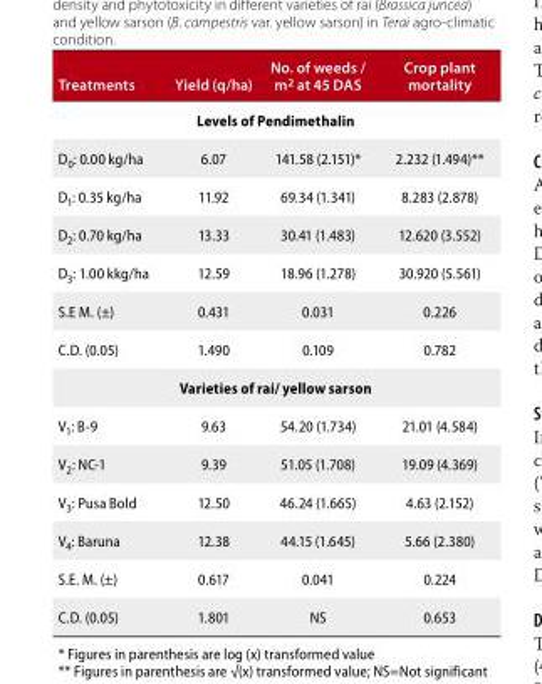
<table><thead><tr><td>Treatments</td><td>Yield (q/ha)</td><td>No. of weeds / m<sup>2</sup> at 45 DAS</td><td>Crop plant mortality</td></tr></thead><tbody><tr><td colspan="4">Levels of Pendimethalin</td></tr><tr><td>D<sub>0</sub>: 0.00 kg/ha</td><td>6.07</td><td>141.58 (2.151)*</td><td>2.232 (1.494)**</td></tr><tr><td>D<sub>1</sub>: 0.35 kg/ha</td><td>11.92</td><td>69.34 (1.341)</td><td>8.283 (2.878)</td></tr><tr><td>D<sub>2</sub>: 0.70 kg/ha</td><td>13.33</td><td>30.41 (1.483)</td><td>12.620 (3.552)</td></tr><tr><td>D<sub>3</sub>: 1.00 kkg/ha</td><td>12.59</td><td>18.96 (1.278)</td><td>30.920 (5.561)</td></tr><tr><td>S.E M. (±)</td><td>0.431</td><td>0.031</td><td>0.226</td></tr><tr><td>C.D. (0.05)</td><td>1.490</td><td>0.109</td><td>0.782</td></tr><tr><td colspan="4">Varieties of rai/ yellow sarson</td></tr><tr><td>V<sub>1</sub>: B-9</td><td>9.63</td><td>54.20 (1.734)</td><td>21.01 (4.584)</td></tr><tr><td>V<sub>2</sub>: NC-1</td><td>9.39</td><td>51.05 (1.708)</td><td>19.09 (4.369)</td></tr><tr><td>V<sub>3</sub>: Pusa Bold</td><td>12.50</td><td>46.24 (1.665)</td><td>4.63 (2.152)</td></tr><tr><td>V<sub>4</sub>: Baruna</td><td>12.38</td><td>44.15 (1.645)</td><td>5.66 (2.380)</td></tr><tr><td>S.E. M. (±)</td><td>0.617</td><td>0.041</td><td>0.224</td></tr><tr><td>C.D. (0.05)</td><td>1.801</td><td>NS</td><td>0.653</td></tr></tbody></table>